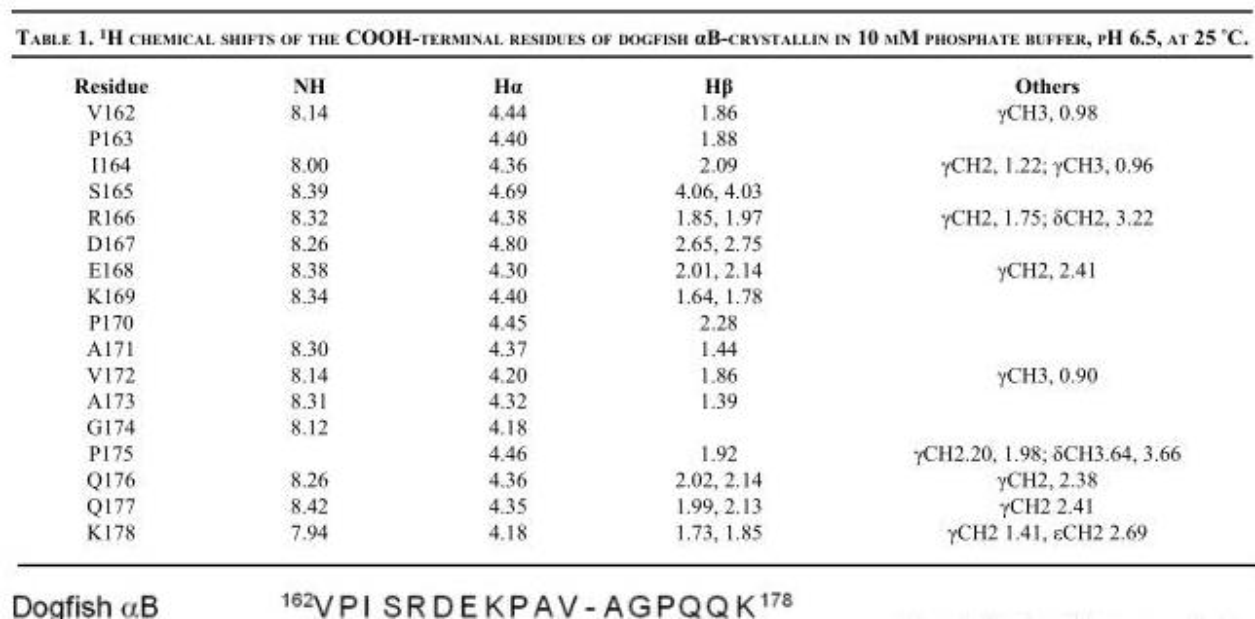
<table><thead><tr><td>Residue</td><td>NH</td><td>Hα</td><td>Hβ</td><td>Others</td></tr></thead><tbody><tr><td>V162</td><td>8.14</td><td>4.44</td><td>1.86</td><td>γCH3, 0.98</td></tr><tr><td>P163</td><td></td><td>4.40</td><td>1.88</td><td></td></tr><tr><td>I164</td><td>8.00</td><td>4.36</td><td>2.09</td><td>γCH2, 1.22; γCH3, 0.96</td></tr><tr><td>S165</td><td>8.39</td><td>4.69</td><td>4.06, 4.03</td><td></td></tr><tr><td>R166</td><td>8.32</td><td>4.38</td><td>1.85, 1.97</td><td>γCH2, 1.75; δCH2, 3.22</td></tr><tr><td>D167</td><td>8.26</td><td>4.80</td><td>2.65, 2.75</td><td></td></tr><tr><td>E168</td><td>8.38</td><td>4.30</td><td>2.01, 2.14</td><td>γCH2, 2.41</td></tr><tr><td>K169</td><td>8.34</td><td>4.40</td><td>1.64, 1.78</td><td></td></tr><tr><td>P170</td><td></td><td>4.45</td><td>2.28</td><td></td></tr><tr><td>A171</td><td>8.30</td><td>4.37</td><td>1.44</td><td></td></tr><tr><td>V172</td><td>8.14</td><td>4.20</td><td>1.86</td><td>γCH3, 0.90</td></tr><tr><td>A173</td><td>8.31</td><td>4.32</td><td>1.39</td><td></td></tr><tr><td>G174</td><td>8.12</td><td>4.18</td><td></td><td></td></tr><tr><td>P175</td><td></td><td>4.46</td><td>1.92</td><td>γCH2.20, 1.98; δCH3.64, 3.66</td></tr><tr><td>Q176</td><td>8.26</td><td>4.36</td><td>2.02, 2.14</td><td>γCH2, 2.38</td></tr><tr><td>Q177</td><td>8.42</td><td>4.35</td><td>1.99, 2.13</td><td>γCH2 2.41</td></tr><tr><td>K178</td><td>7.94</td><td>4.18</td><td>1.73, 1.85</td><td>γCH2 1.41, εCH2 2.69</td></tr></tbody></table>